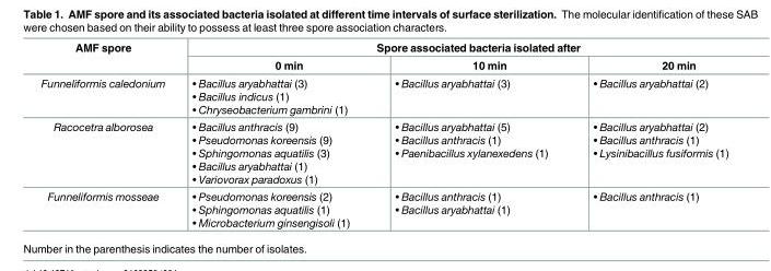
<table><thead><tr><td rowspan="2">AMF spore</td><td colspan="3">Spore associated bacteria isolated after</td></tr><tr><td>0 min</td><td>10 min</td><td>20 min</td></tr></thead><tbody><tr><td>Funneliformis caledonium</td><td>• Bacillus aryabhattai (3) • Bacillus indicus (1) • Chryseobacterium gambrini (1)</td><td>• Bacillus aryabhattai (3)</td><td>• Bacillus aryabhattai (2)</td></tr><tr><td>Racocetra alborosea</td><td>• Bacillus anthracis (9) • Pseudomonas koreensis (9) • Sphingomonas aquatilis (3) • Bacillus aryabhattai (1) • Variovorax paradoxus (1)</td><td>• Bacillus aryabhattai (5) • Bacillus anthracis (1) • Paenibacillus xylanexedens (1)</td><td>• Bacillus aryabhattai (2) • Bacillus anthracis (1) • Lysinibacillus fusiformis (1)</td></tr><tr><td>Funneliformis mosseae</td><td>• Pseudomonas koreensis (2) • Sphingomonas aquatilis (1) • Microbacterium ginsengisoli (1)</td><td>• Bacillus anthracis (1) • Bacillus aryabhattai (1)</td><td>• Bacillus anthracis (1)</td></tr></tbody></table>